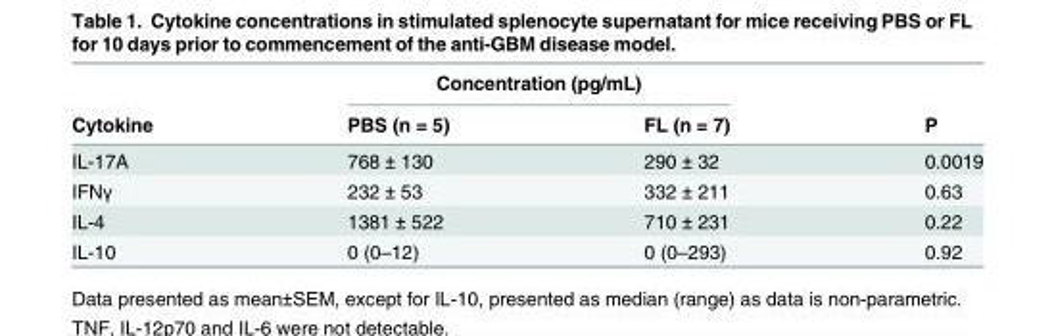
<table><thead><tr><td rowspan="2">Cytokine</td><td colspan="2">Concentration (pg/mL)</td><td rowspan="2">P</td></tr><tr><td>PBS (n = 5)</td><td>FL (n = 7)</td></tr></thead><tbody><tr><td>IL-17A</td><td>768 ± 130</td><td>290 ± 32</td><td>0.0019</td></tr><tr><td>IFNγ</td><td>232 ± 53</td><td>332 ± 211</td><td>0.63</td></tr><tr><td>IL-4</td><td>1381 ± 522</td><td>710 ± 231</td><td>0.22</td></tr><tr><td>IL-10</td><td>0 (0–12)</td><td>0 (0–293)</td><td>0.92</td></tr></tbody></table>